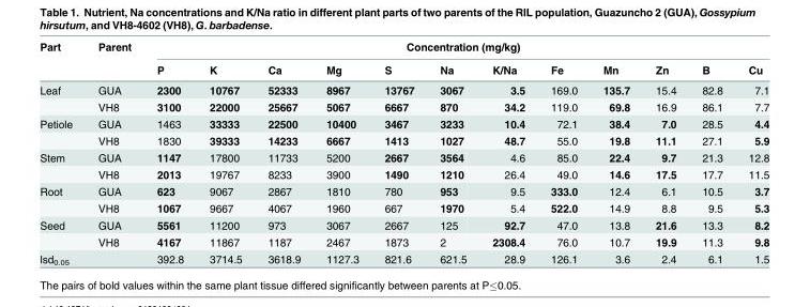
<table><thead><tr><td rowspan="2">Part</td><td rowspan="2">Parent</td><td colspan="12">Concentration (mg/kg)</td></tr><tr><td>P</td><td>K</td><td>Ca</td><td>Mg</td><td>S</td><td>Na</td><td>K/Na</td><td>Fe</td><td>Mn</td><td>Zn</td><td>B</td><td>Cu</td></tr></thead><tbody><tr><td rowspan="2">Leaf</td><td>GUA</td><td>2300</td><td>10767</td><td>52333</td><td>8967</td><td>13767</td><td>3067</td><td>3.5</td><td>169.0</td><td>135.7</td><td>15.4</td><td>82.8</td><td>7.1</td></tr><tr><td>VH8</td><td>3100</td><td>22000</td><td>25667</td><td>5067</td><td>6667</td><td>870</td><td>34.2</td><td>119.0</td><td>69.8</td><td>16.9</td><td>86.1</td><td>7.7</td></tr><tr><td rowspan="2">Petiole</td><td>GUA</td><td>1463</td><td>33333</td><td>22500</td><td>10400</td><td>3467</td><td>3233</td><td>10.4</td><td>72.1</td><td>38.4</td><td>7.0</td><td>28.5</td><td>4.4</td></tr><tr><td>VH8</td><td>1830</td><td>39333</td><td>14233</td><td>6667</td><td>1413</td><td>1027</td><td>48.7</td><td>55.0</td><td>19.8</td><td>11.1</td><td>27.1</td><td>5.9</td></tr><tr><td rowspan="2">Stem</td><td>GUA</td><td>1147</td><td>17800</td><td>11733</td><td>5200</td><td>2667</td><td>3564</td><td>4.6</td><td>85.0</td><td>22.4</td><td>9.7</td><td>21.3</td><td>12.8</td></tr><tr><td>VH8</td><td>2013</td><td>19767</td><td>8233</td><td>3900</td><td>1490</td><td>1210</td><td>26.4</td><td>49.0</td><td>14.6</td><td>17.5</td><td>17.7</td><td>11.5</td></tr><tr><td rowspan="2">Root</td><td>GUA</td><td>623</td><td>9067</td><td>2867</td><td>1810</td><td>780</td><td>953</td><td>9.5</td><td>333.0</td><td>12.4</td><td>6.1</td><td>10.5</td><td>3.7</td></tr><tr><td>VH8</td><td>1067</td><td>9667</td><td>4067</td><td>1960</td><td>667</td><td>1970</td><td>5.4</td><td>522.0</td><td>14.9</td><td>8.8</td><td>9.5</td><td>5.3</td></tr><tr><td rowspan="2">Seed</td><td>GUA</td><td>5561</td><td>11200</td><td>973</td><td>3067</td><td>2667</td><td>125</td><td>92.7</td><td>47.0</td><td>13.8</td><td>21.6</td><td>13.3</td><td>8.2</td></tr><tr><td>VH8</td><td>4167</td><td>11867</td><td>1187</td><td>2467</td><td>1873</td><td>2</td><td>2308.4</td><td>76.0</td><td>10.7</td><td>19.9</td><td>11.3</td><td>9.8</td></tr><tr><td>lsd<sub>0.05</sub></td><td></td><td>392.8</td><td>3714.5</td><td>3618.9</td><td>1127.3</td><td>821.6</td><td>621.5</td><td>28.9</td><td>126.1</td><td>3.6</td><td>2.4</td><td>6.1</td><td>1.5</td></tr></tbody></table>